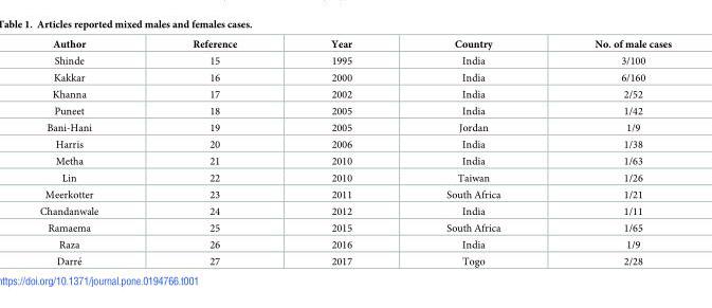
<table><thead><tr><td>Author</td><td>Reference</td><td>Year</td><td>Country</td><td>No. of male cases</td></tr></thead><tbody><tr><td>Shinde</td><td>15</td><td>1995</td><td>India</td><td>3/100</td></tr><tr><td>Kakkar</td><td>16</td><td>2000</td><td>India</td><td>6/160</td></tr><tr><td>Khanna</td><td>17</td><td>2002</td><td>India</td><td>2/52</td></tr><tr><td>Puneet</td><td>18</td><td>2005</td><td>India</td><td>1/42</td></tr><tr><td>Bani-Hani</td><td>19</td><td>2005</td><td>Jordan</td><td>1/9</td></tr><tr><td>Harris</td><td>20</td><td>2006</td><td>India</td><td>1/38</td></tr><tr><td>Metha</td><td>21</td><td>2010</td><td>India</td><td>1/63</td></tr><tr><td>Lin</td><td>22</td><td>2010</td><td>Taiwan</td><td>1/26</td></tr><tr><td>Meerkotter</td><td>23</td><td>2011</td><td>South Africa</td><td>1/21</td></tr><tr><td>Chandanwale</td><td>24</td><td>2012</td><td>India</td><td>1/11</td></tr><tr><td>Ramaema</td><td>25</td><td>2015</td><td>South Africa</td><td>1/65</td></tr><tr><td>Raza</td><td>26</td><td>2016</td><td>India</td><td>1/9</td></tr><tr><td>Darre´</td><td>27</td><td>2017</td><td>Togo</td><td>2/28</td></tr></tbody></table>